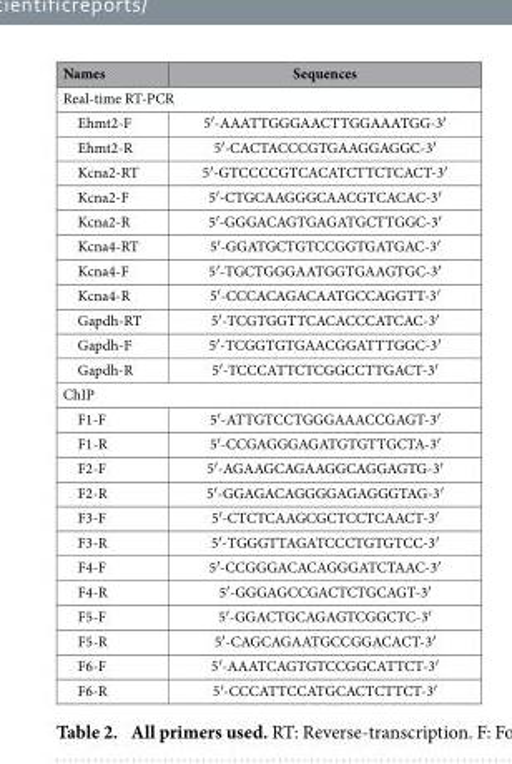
<table><thead><tr><td>Names</td><td>Sequences</td></tr></thead><tbody><tr><td colspan="2">Real-time RT-PCR</td></tr><tr><td>Ehmt2-F</td><td>5′ -AAATTGGGAACTTGGAAATGG-3′</td></tr><tr><td>Ehmt2-R</td><td>5′ -CACTACCCGTGAAGGAGGC-3′</td></tr><tr><td>Kcna2-RT</td><td>5′ -GTCCCCGTCACATCTTCTCACT-3′</td></tr><tr><td>Kcna2-F</td><td>5′ -CTGCAAGGGCAACGTCACAC-3′</td></tr><tr><td>Kcna2-R</td><td>5′ -GGGACAGTGAGATGCTTGGC-3′</td></tr><tr><td>Kcna4-RT</td><td>5′ -GGATGCTGTCCGGTGATGAC-3′</td></tr><tr><td>Kcna4-F</td><td>5′ -TGCTGGGAATGGTGAAGTGC-3′</td></tr><tr><td>Kcna4-R</td><td>5′ -CCCACAGACAATGCCAGGTT-3′</td></tr><tr><td>Gapdh-RT</td><td>5′ -TCGTGGTTCACACCCATCAC-3′</td></tr><tr><td>Gapdh-F</td><td>5′ -TCGGTGTGAACGGATTTGGC-3′</td></tr><tr><td>Gapdh-R</td><td>5′ -TCCCATTCTCGGCCTTGACT-3′</td></tr><tr><td colspan="2">ChIP</td></tr><tr><td>F1-F</td><td>5′ -ATTGTCCTGGGAAACCGAGT-3′</td></tr><tr><td>F1-R</td><td>5′ -CCGAGGGAGATGTGTTGCTA-3′</td></tr><tr><td>F2-F</td><td>5′ -AGAAGCAGAAGGCAGGAGTG-3′</td></tr><tr><td>F2-R</td><td>5′ -GGAGACAGGGGAGAGGGTAG-3′</td></tr><tr><td>F3-F</td><td>5′ -CTCTCAAGCGCTCCTCAACT-3′</td></tr><tr><td>F3-R</td><td>5′ -TGGGTTAGATCCCTGTGTCC-3′</td></tr><tr><td>F4-F</td><td>5′ -CCGGGACACAGGGATCTAAC-3′</td></tr><tr><td>F4-R</td><td>5′ -GGGAGCCGACTCTGCAGT-3′</td></tr><tr><td>F5-F</td><td>5′ -GGACTGCAGAGTCGGCTC-3′</td></tr><tr><td>F5-R</td><td>5′ -CAGCAGAATGCCGGACACT-3′</td></tr><tr><td>F6-F</td><td>5′ -AAATCAGTGTCCGGCATTCT-3′</td></tr><tr><td>F6-R</td><td>5′ -CCCATTCCATGCACTCTTCT-3′</td></tr></tbody></table>